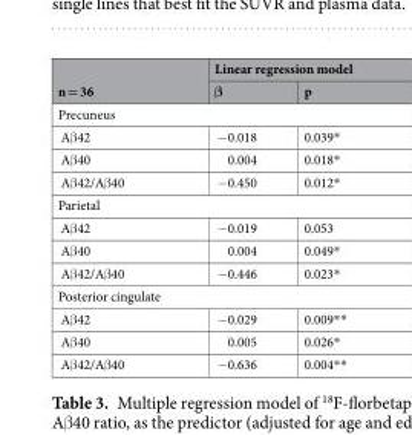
<table><thead><tr><td rowspan="2">n = 36</td><td colspan="2">Linear regression model</td></tr><tr><td>β</td><td>p</td></tr></thead><tbody><tr><td colspan="3">Precuneus</td></tr><tr><td>Aβ42</td><td>−0.018</td><td>0.039*</td></tr><tr><td>Aβ40</td><td>0.004</td><td>0.018*</td></tr><tr><td>Aβ42/Aβ40</td><td>−0.450</td><td>0.012*</td></tr><tr><td colspan="3">Parietal</td></tr><tr><td>Aβ42</td><td>−0.019</td><td>0.053</td></tr><tr><td>Aβ40</td><td>0.004</td><td>0.049*</td></tr><tr><td>Aβ42/Aβ40</td><td>−0.446</td><td>0.023*</td></tr><tr><td colspan="3">Posterior cingulate</td></tr><tr><td>Aβ42</td><td>−0.029</td><td>0.009**</td></tr><tr><td>Aβ40</td><td>0.005</td><td>0.026*</td></tr><tr><td>Aβ42/Aβ40</td><td>−0.636</td><td>0.004**</td></tr></tbody></table>